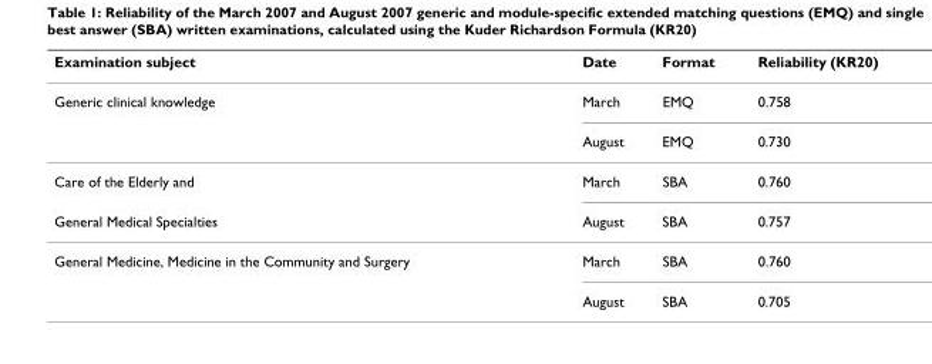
<table><thead><tr><td>Examination subject</td><td>Date</td><td>Format</td><td>Reliability (KR20)</td></tr></thead><tbody><tr><td rowspan="2">Generic clinical knowledge</td><td>March</td><td>EMQ</td><td>0.758</td></tr><tr><td>August</td><td>EMQ</td><td>0.730</td></tr><tr><td>Care of the Elderly and</td><td>March</td><td>SBA</td><td>0.760</td></tr><tr><td>General Medical Specialties</td><td>August</td><td>SBA</td><td>0.757</td></tr><tr><td rowspan="2">General Medicine, Medicine in the Community and Surgery</td><td>March</td><td>SBA</td><td>0.760</td></tr><tr><td>August</td><td>SBA</td><td>0.705</td></tr></tbody></table>